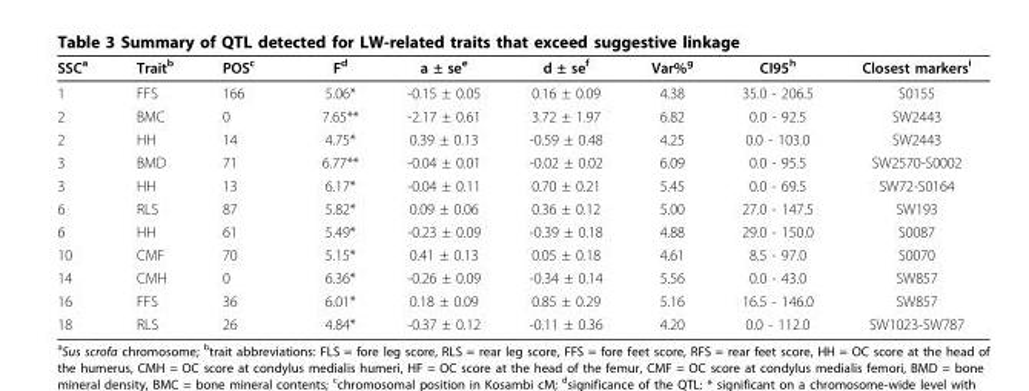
<table><thead><tr><td>SSC<sup>a</sup></td><td>Trait<sup>b</sup></td><td>POS<sup>c</sup></td><td>F<sup>d</sup></td><td>a ± se<sup>e</sup></td><td>d ± se<sup>f</sup></td><td>Var%<sup>g</sup></td><td>CI95<sup>h</sup></td><td>Closest markers<sup>i</sup></td></tr></thead><tbody><tr><td>1</td><td>FFS</td><td>166</td><td>5.06*</td><td>-0.15 ± 0.05</td><td>0.16 ± 0.09</td><td>4.38</td><td>35.0 - 206.5</td><td>S0155</td></tr><tr><td>2</td><td>BMC</td><td>0</td><td>7.65**</td><td>-2.17 ± 0.61</td><td>3.72 ± 1.97</td><td>6.82</td><td>0.0 - 92.5</td><td>SW2443</td></tr><tr><td>2</td><td>HH</td><td>14</td><td>4.75*</td><td>0.39 ± 0.13</td><td>-0.59 ± 0.48</td><td>4.25</td><td>0.0 - 103.0</td><td>SW2443</td></tr><tr><td>3</td><td>BMD</td><td>71</td><td>6.77**</td><td>-0.04 ± 0.01</td><td>-0.02 ± 0.02</td><td>6.09</td><td>0.0 - 95.5</td><td>SW2570-S0002</td></tr><tr><td>3</td><td>HH</td><td>13</td><td>6.17*</td><td>-0.04 ± 0.11</td><td>0.70 ± 0.21</td><td>5.45</td><td>0.0 - 69.5</td><td>SW72-S0164</td></tr><tr><td>6</td><td>RLS</td><td>87</td><td>5.82*</td><td>0.09 ± 0.06</td><td>0.36 ± 0.12</td><td>5.00</td><td>27.0 - 147.5</td><td>SW193</td></tr><tr><td>6</td><td>HH</td><td>61</td><td>5.49*</td><td>-0.23 ± 0.09</td><td>-0.39 ± 0.18</td><td>4.88</td><td>29.0 - 150.0</td><td>S0087</td></tr><tr><td>10</td><td>CMF</td><td>70</td><td>5.15*</td><td>0.41 ± 0.13</td><td>0.05 ± 0.18</td><td>4.61</td><td>8.5 - 97.0</td><td>S0070</td></tr><tr><td>14</td><td>CMH</td><td>0</td><td>6.36*</td><td>-0.26 ± 0.09</td><td>-0.34 ± 0.14</td><td>5.56</td><td>0.0 - 43.0</td><td>SW857</td></tr><tr><td>16</td><td>FFS</td><td>36</td><td>6.01*</td><td>0.18 ± 0.09</td><td>0.85 ± 0.29</td><td>5.16</td><td>16.5 - 146.0</td><td>SW857</td></tr><tr><td>18</td><td>RLS</td><td>26</td><td>4.84*</td><td>-0.37 ± 0.12</td><td>-0.11 ± 0.36</td><td>4.20</td><td>0.0 - 112.0</td><td>SW1023-SW787</td></tr></tbody></table>